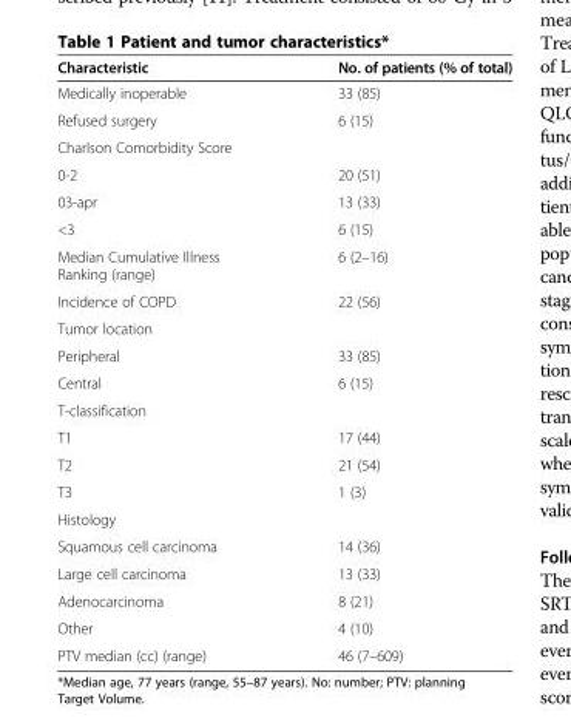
<table><thead><tr><td>Characteristic</td><td>No. of patients (% of total)</td></tr></thead><tbody><tr><td>Medically inoperable</td><td>33 (85)</td></tr><tr><td>Refused surgery</td><td>6 (15)</td></tr><tr><td colspan="2">Charlson Comorbidity Score</td></tr><tr><td>0-2</td><td>20 (51)</td></tr><tr><td>03-apr</td><td>13 (33)</td></tr><tr><td>&lt;3</td><td>6 (15)</td></tr><tr><td>Median Cumulative Illness Ranking (range)</td><td>6 (2–16)</td></tr><tr><td>Incidence of COPD</td><td>22 (56)</td></tr><tr><td colspan="2">Tumor location</td></tr><tr><td>Peripheral</td><td>33 (85)</td></tr><tr><td>Central</td><td>6 (15)</td></tr><tr><td colspan="2">T-classification</td></tr><tr><td>T1</td><td>17 (44)</td></tr><tr><td>T2</td><td>21 (54)</td></tr><tr><td>T3</td><td>1 (3)</td></tr><tr><td colspan="2">Histology</td></tr><tr><td>Squamous cell carcinoma</td><td>14 (36)</td></tr><tr><td>Large cell carcinoma</td><td>13 (33)</td></tr><tr><td>Adenocarcinoma</td><td>8 (21)</td></tr><tr><td>Other</td><td>4 (10)</td></tr><tr><td>PTV median (cc) (range)</td><td>46 (7–609)</td></tr></tbody></table>